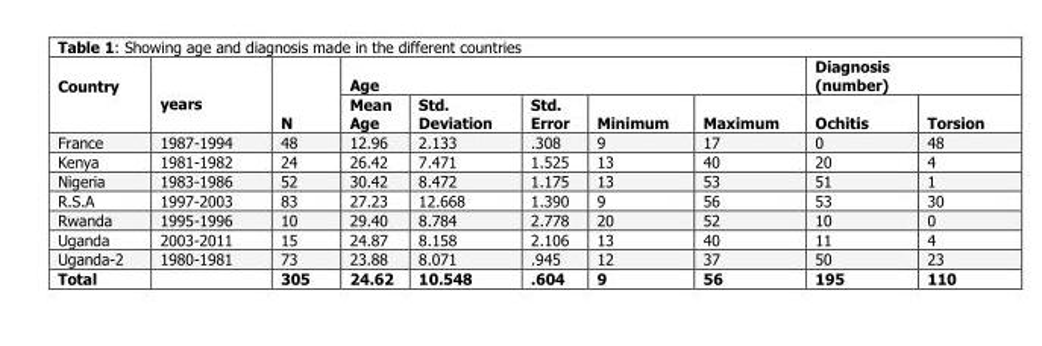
<table><thead><tr><td rowspan="2">Country</td><td rowspan="2">years</td><td rowspan="2">N</td><td colspan="5">Age</td><td colspan="2">Diagnosis (number)</td></tr><tr><td>Mean Age</td><td>Std. Deviation</td><td>Std. Error</td><td>Minimum</td><td>Maximum</td><td>Ochitis</td><td>Torsion</td></tr></thead><tbody><tr><td>France</td><td>1987-1994</td><td>48</td><td>12.96</td><td>2.133</td><td>.308</td><td>9</td><td>17</td><td>0</td><td>48</td></tr><tr><td>Kenya</td><td>1981-1982</td><td>24</td><td>26.42</td><td>7.471</td><td>1.525</td><td>13</td><td>40</td><td>20</td><td>4</td></tr><tr><td>Nigeria</td><td>1983-1986</td><td>52</td><td>30.42</td><td>8.472</td><td>1.175</td><td>13</td><td>53</td><td>51</td><td>1</td></tr><tr><td>R.S.A</td><td>1997-2003</td><td>83</td><td>27.23</td><td>12.668</td><td>1.390</td><td>9</td><td>56</td><td>53</td><td>30</td></tr><tr><td>Rwanda</td><td>1995-1996</td><td>10</td><td>29.40</td><td>8.784</td><td>2.778</td><td>20</td><td>52</td><td>10</td><td>0</td></tr><tr><td>Uganda</td><td>2003-2011</td><td>15</td><td>24.87</td><td>8.158</td><td>2.106</td><td>13</td><td>40</td><td>11</td><td>4</td></tr><tr><td>Uganda-2</td><td>1980-1981</td><td>73</td><td>23.88</td><td>8.071</td><td>.945</td><td>12</td><td>37</td><td>50</td><td>23</td></tr><tr><td>Total</td><td></td><td>305</td><td>24.62</td><td>10.548</td><td>.604</td><td>9</td><td>56</td><td>195</td><td>110</td></tr></tbody></table>